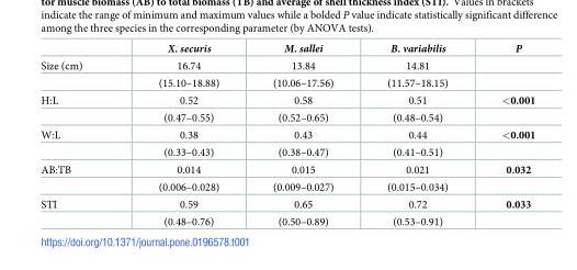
<table><thead><tr><td></td><td>X. securis</td><td>M. sallei</td><td>B. variabilis</td><td>P</td></tr></thead><tbody><tr><td rowspan="2">Size (cm)</td><td>16.74</td><td>13.84</td><td>14.81</td><td></td></tr><tr><td>(15.10–18.88)</td><td>(10.06–17.56)</td><td>(11.57–18.15)</td><td></td></tr><tr><td rowspan="2">H:L</td><td>0.52</td><td>0.58</td><td>0.51</td><td>&lt;0.001</td></tr><tr><td>(0.47–0.55)</td><td>(0.52–0.65)</td><td>(0.48–0.54)</td><td></td></tr><tr><td rowspan="2">W:L</td><td>0.38</td><td>0.43</td><td>0.44</td><td>&lt;0.001</td></tr><tr><td>(0.33–0.43)</td><td>(0.38–0.47)</td><td>(0.41–0.51)</td><td></td></tr><tr><td rowspan="2">AB:TB</td><td>0.014</td><td>0.015</td><td>0.021</td><td>0.032</td></tr><tr><td>(0.006–0.028)</td><td>(0.009–0.027)</td><td>(0.015–0.034)</td><td></td></tr><tr><td rowspan="2">STI</td><td>0.59</td><td>0.65</td><td>0.72</td><td>0.033</td></tr><tr><td>(0.48–0.76)</td><td>(0.50–0.89)</td><td>(0.53–0.91)</td><td></td></tr></tbody></table>